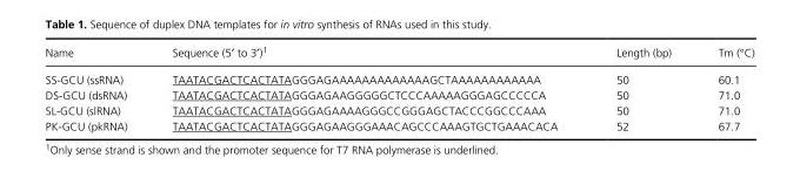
<table><thead><tr><td>Name</td><td>Sequence (5′ to 3′)1</td><td>Length (bp)</td><td>Tm (°C)</td></tr></thead><tbody><tr><td>SS- GCU (ssRNA)</td><td>TAATACGACTCACTATAGGGAGAAAAAAAAAAAAAGCTAAAAAAAAAAAA</td><td>50</td><td>60.1</td></tr><tr><td>DS- GCU (dsRNA)</td><td>TAATACGACTCACTATAGGGAGAAGGGGGCTCCCAAAAAGGGAGCCCCCA</td><td>50</td><td>71.0</td></tr><tr><td>SL- GCU (slRNA)</td><td>TAATACGACTCACTATAGGGAGAAAAGGGCCGGGAGCTACCCGGCCCAAA</td><td>50</td><td>71.0</td></tr><tr><td>PK- GCU (pkRNA)</td><td>TAATACGACTCACTATAGGGAGAAGGGAAACAGCCCAAAGTGCTGAAACACA</td><td>52</td><td>67.7</td></tr></tbody></table>